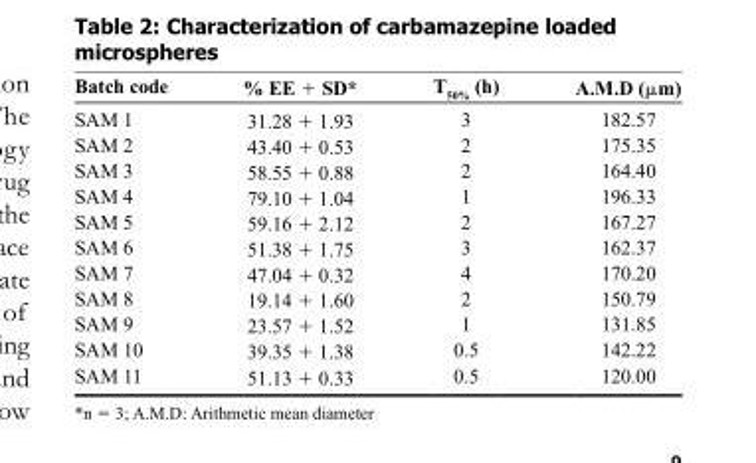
<table><thead><tr><td>Batch code</td><td>% EE + SD*</td><td>T50% (h)</td><td>A.M.D (µm)</td></tr></thead><tbody><tr><td>SAM 1</td><td>31.28 + 1.93</td><td>3</td><td>182.57</td></tr><tr><td>SAM 2</td><td>43.40 + 0.53</td><td>2</td><td>175.35</td></tr><tr><td>SAM 3</td><td>58.55 + 0.88</td><td>2</td><td>164.40</td></tr><tr><td>SAM 4</td><td>79.10 + 1.04</td><td>1</td><td>196.33</td></tr><tr><td>SAM 5</td><td>59.16 + 2.12</td><td>2</td><td>167.27</td></tr><tr><td>SAM 6</td><td>51.38 + 1.75</td><td>3</td><td>162.37</td></tr><tr><td>SAM 7</td><td>47.04 + 0.32</td><td>4</td><td>170.20</td></tr><tr><td>SAM 8</td><td>19.14 + 1.60</td><td>2</td><td>150.79</td></tr><tr><td>SAM 9</td><td>23.57 + 1.52</td><td>1</td><td>131.85</td></tr><tr><td>SAM 10</td><td>39.35 + 1.38</td><td>0.5</td><td>142.22</td></tr><tr><td>SAM 11</td><td>51.13 + 0.33</td><td>0.5</td><td>120.00</td></tr></tbody></table>